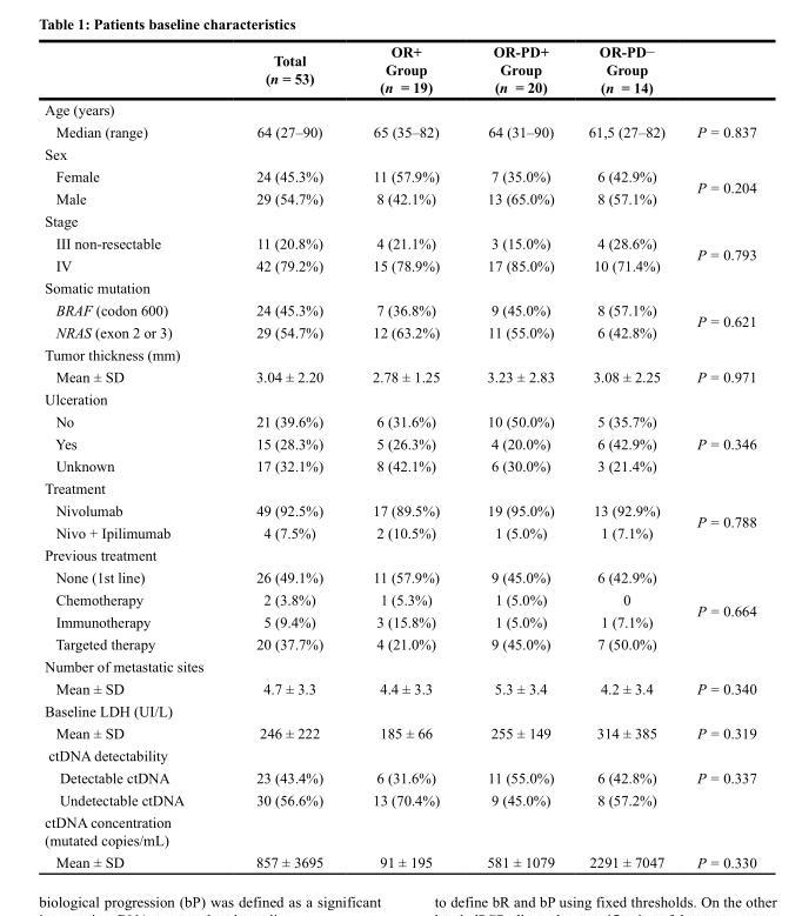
<table><thead><tr><td></td><td>Total (n = 53)</td><td>OR+ Group (n = 19)</td><td>OR-PD+ Group (n = 20)</td><td>OR-PD− Group (n = 14)</td><td></td></tr></thead><tbody><tr><td colspan="6">Age (years)</td></tr><tr><td>Median (range)</td><td>64 (27–90)</td><td>65 (35–82)</td><td>64 (31–90)</td><td>61,5 (27–82)</td><td>P = 0.837</td></tr><tr><td colspan="6">Sex</td></tr><tr><td>Female</td><td>24 (45.3%)</td><td>11 (57.9%)</td><td>7 (35.0%)</td><td>6 (42.9%)</td><td rowspan="2">P = 0.204</td></tr><tr><td>Male</td><td>29 (54.7%)</td><td>8 (42.1%)</td><td>13 (65.0%)</td><td>8 (57.1%)</td></tr><tr><td colspan="6">Stage</td></tr><tr><td>III non-resectable</td><td>11 (20.8%)</td><td>4 (21.1%)</td><td>3 (15.0%)</td><td>4 (28.6%)</td><td rowspan="2">P = 0.793</td></tr><tr><td>IV</td><td>42 (79.2%)</td><td>15 (78.9%)</td><td>17 (85.0%)</td><td>10 (71.4%)</td></tr><tr><td colspan="6">Somatic mutation</td></tr><tr><td>BRAF (codon 600)</td><td>24 (45.3%)</td><td>7 (36.8%)</td><td>9 (45.0%)</td><td>8 (57.1%)</td><td rowspan="2">P = 0.621</td></tr><tr><td>NRAS (exon 2 or 3)</td><td>29 (54.7%)</td><td>12 (63.2%)</td><td>11 (55.0%)</td><td>6 (42.8%)</td></tr><tr><td colspan="6">Tumor thickness (mm)</td></tr><tr><td>Mean ± SD</td><td>3.04 ± 2.20</td><td>2.78 ± 1.25</td><td>3.23 ± 2.83</td><td>3.08 ± 2.25</td><td>P = 0.971</td></tr><tr><td colspan="6">Ulceration</td></tr><tr><td>No</td><td>21 (39.6%)</td><td>6 (31.6%)</td><td>10 (50.0%)</td><td>5 (35.7%)</td><td rowspan="3">P = 0.346</td></tr><tr><td>Yes</td><td>15 (28.3%)</td><td>5 (26.3%)</td><td>4 (20.0%)</td><td>6 (42.9%)</td></tr><tr><td>Unknown</td><td>17 (32.1%)</td><td>8 (42.1%)</td><td>6 (30.0%)</td><td>3 (21.4%)</td></tr><tr><td colspan="6">Treatment</td></tr><tr><td>Nivolumab</td><td>49 (92.5%)</td><td>17 (89.5%)</td><td>19 (95.0%)</td><td>13 (92.9%)</td><td rowspan="2">P = 0.788</td></tr><tr><td>Nivo + Ipilimumab</td><td>4 (7.5%)</td><td>2 (10.5%)</td><td>1 (5.0%)</td><td>1 (7.1%)</td></tr><tr><td colspan="6">Previous treatment</td></tr><tr><td>None (1st line)</td><td>26 (49.1%)</td><td>11 (57.9%)</td><td>9 (45.0%)</td><td>6 (42.9%)</td><td rowspan="4">P = 0.664</td></tr><tr><td>Chemotherapy</td><td>2 (3.8%)</td><td>1 (5.3%)</td><td>1 (5.0%)</td><td>0</td></tr><tr><td>Immunotherapy</td><td>5 (9.4%)</td><td>3 (15.8%)</td><td>1 (5.0%)</td><td>1 (7.1%)</td></tr><tr><td>Targeted therapy</td><td>20 (37.7%)</td><td>4 (21.0%)</td><td>9 (45.0%)</td><td>7 (50.0%)</td></tr><tr><td colspan="6">Number of metastatic sites</td></tr><tr><td>Mean ± SD</td><td>4.7 ± 3.3</td><td>4.4 ± 3.3</td><td>5.3 ± 3.4</td><td>4.2 ± 3.4</td><td>P = 0.340</td></tr><tr><td colspan="6">Baseline LDH (UI/L)</td></tr><tr><td>Mean ± SD</td><td>246 ± 222</td><td>185 ± 66</td><td>255 ± 149</td><td>314 ± 385</td><td>P = 0.319</td></tr><tr><td colspan="6">ctDNA detectability</td></tr><tr><td>Detectable ctDNA</td><td>23 (43.4%)</td><td>6 (31.6%)</td><td>11 (55.0%)</td><td>6 (42.8%)</td><td>P = 0.337</td></tr><tr><td>Undetectable ctDNA</td><td>30 (56.6%)</td><td>13 (70.4%)</td><td>9 (45.0%)</td><td>8 (57.2%)</td><td></td></tr><tr><td colspan="6">ctDNA concentration (mutated copies/mL)</td></tr><tr><td>Mean ± SD</td><td>857 ± 3695</td><td>91 ± 195</td><td>581 ± 1079</td><td>2291 ± 7047</td><td>P = 0.330</td></tr></tbody></table>